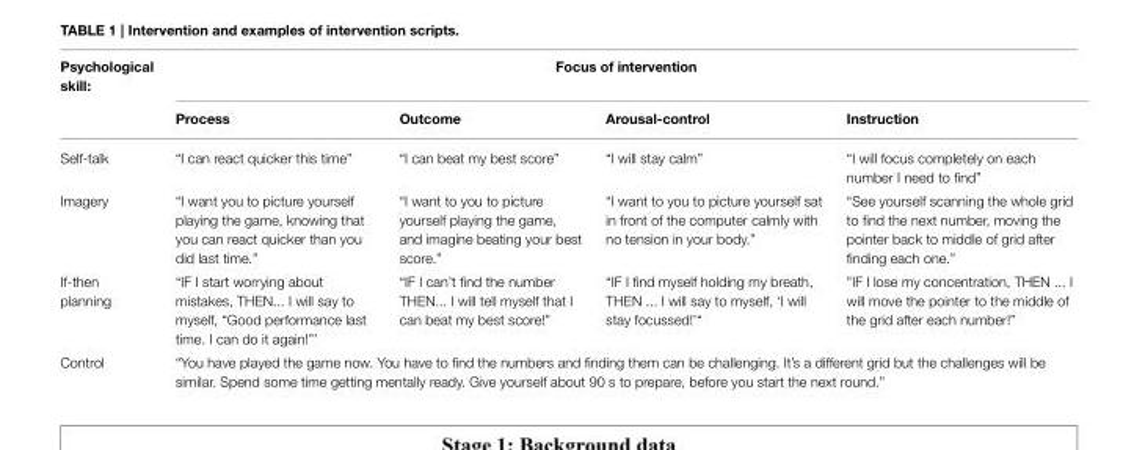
<table><thead><tr><td rowspan="2">Psychological skill:</td><td colspan="4">Focus of intervention</td></tr><tr><td>Process</td><td>Outcome</td><td>Arousal-control</td><td>Instruction</td></tr></thead><tbody><tr><td>Self-talk</td><td>“I can react quicker this time”</td><td>“I can beat my best score”</td><td>“I will stay calm”</td><td>“I will focus completely on each number I need to find”</td></tr><tr><td>Imagery</td><td>“I want you to picture yourself playing the game, knowing that you can react quicker than you did last time.”</td><td>“I want to you to picture yourself playing the game, and imagine beating your best score.”</td><td>“I want to you to picture yourself sat in front of the computer calmly with no tension in your body.”</td><td>“See yourself scanning the whole grid to find the next number, moving the pointer back to middle of grid after finding each one.”</td></tr><tr><td>If-then planning</td><td>“IF I start worrying about mistakes, THEN... I will say to myself, “Good performance last time. I can do it again!”’</td><td>“IF I can’t find the number THEN... I will tell myself that I can beat my best score!”</td><td>“IF I find myself holding my breath, THEN ... I will say to myself, ‘I will stay focussed!’“</td><td>”IF I lose my concentration, THEN ... I will move the pointer to the middle of the grid after each number!”</td></tr><tr><td>Control</td><td colspan="4">“You have played the game now. You have to find the numbers and finding them can be challenging. It’s a different grid but the challenges will be similar. Spend some time getting mentally ready. Give yourself about 90 s to prepare, before you start the next round.”</td></tr></tbody></table>